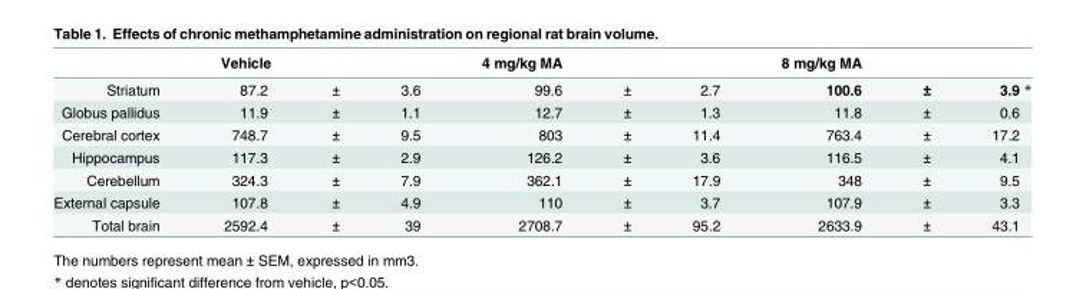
<table><thead><tr><td></td><td>Vehicle</td><td></td><td></td><td>4 mg/kg MA</td><td></td><td></td><td>8 mg/kg MA</td><td></td><td></td></tr></thead><tbody><tr><td>Striatum</td><td>87.2</td><td>±</td><td>3.6</td><td>99.6</td><td>±</td><td>2.7</td><td>100.6</td><td>±</td><td>3.9 *</td></tr><tr><td>Globus pallidus</td><td>11.9</td><td>±</td><td>1.1</td><td>12.7</td><td>±</td><td>1.3</td><td>11.8</td><td>±</td><td>0.6</td></tr><tr><td>Cerebral cortex</td><td>748.7</td><td>±</td><td>9.5</td><td>803</td><td>±</td><td>11.4</td><td>763.4</td><td>±</td><td>17.2</td></tr><tr><td>Hippocampus</td><td>117.3</td><td>±</td><td>2.9</td><td>126.2</td><td>±</td><td>3.6</td><td>116.5</td><td>±</td><td>4.1</td></tr><tr><td>Cerebellum</td><td>324.3</td><td>±</td><td>7.9</td><td>362.1</td><td>±</td><td>17.9</td><td>348</td><td>±</td><td>9.5</td></tr><tr><td>External capsule</td><td>107.8</td><td>±</td><td>4.9</td><td>110</td><td>±</td><td>3.7</td><td>107.9</td><td>±</td><td>3.3</td></tr><tr><td>Total brain</td><td>2592.4</td><td>±</td><td>39</td><td>2708.7</td><td>±</td><td>95.2</td><td>2633.9</td><td>±</td><td>43.1</td></tr></tbody></table>